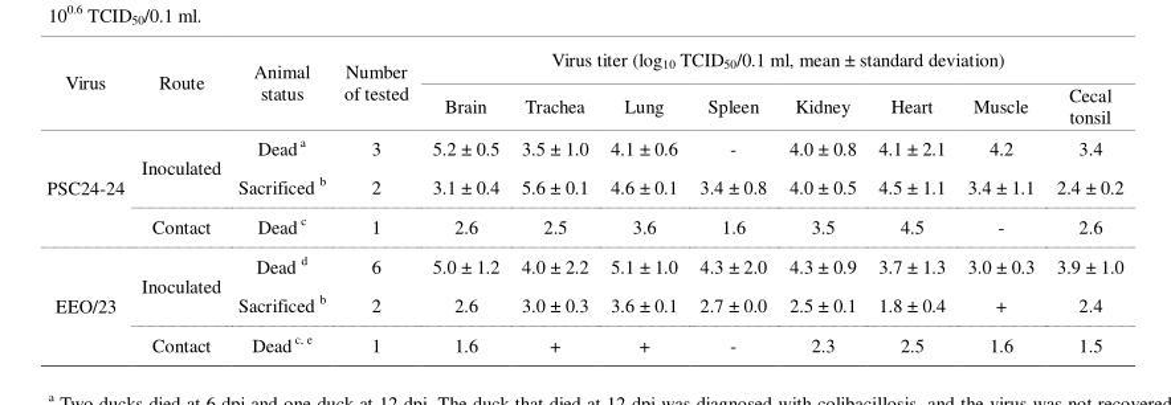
<table><thead><tr><td rowspan="2">Virus</td><td rowspan="2">Route</td><td rowspan="2">Animal status</td><td rowspan="2">Number of tested</td><td colspan="8">Virus titer (log<sub>10</sub> TCID<sub>50</sub>/0.1 ml, mean ± standard deviation)</td></tr><tr><td>Brain</td><td>Trachea</td><td>Lung</td><td>Spleen</td><td>Kidney</td><td>Heart</td><td>Muscle</td><td>Cecal tonsil</td></tr></thead><tbody><tr><td rowspan="3">PSC24-24</td><td rowspan="2">Inoculated</td><td>Dead <sup>a</sup></td><td>3</td><td>5.2 ± 0.5</td><td>3.5 ± 1.0</td><td>4.1 ± 0.6</td><td>-</td><td>4.0 ± 0.8</td><td>4.1 ± 2.1</td><td>4.2</td><td>3.4</td></tr><tr><td>Sacrificed <sup>b</sup></td><td>2</td><td>3.1 ± 0.4</td><td>5.6 ± 0.1</td><td>4.6 ± 0.1</td><td>3.4 ± 0.8</td><td>4.0 ± 0.5</td><td>4.5 ± 1.1</td><td>3.4 ± 1.1</td><td>2.4 ± 0.2</td></tr><tr><td>Contact</td><td>Dead <sup>c</sup></td><td>1</td><td>2.6</td><td>2.5</td><td>3.6</td><td>1.6</td><td>3.5</td><td>4.5</td><td>-</td><td>2.6</td></tr><tr><td rowspan="3">EEO/23</td><td rowspan="2">Inoculated</td><td>Dead <sup>d</sup></td><td>6</td><td>5.0 ± 1.2</td><td>4.0 ± 2.2</td><td>5.1 ± 1.0</td><td>4.3 ± 2.0</td><td>4.3 ± 0.9</td><td>3.7 ± 1.3</td><td>3.0 ± 0.3</td><td>3.9 ± 1.0</td></tr><tr><td>Sacrificed <sup>b</sup></td><td>2</td><td>2.6</td><td>3.0 ± 0.3</td><td>3.6 ± 0.1</td><td>2.7 ± 0.0</td><td>2.5 ± 0.1</td><td>1.8 ± 0.4</td><td>+</td><td>2.4</td></tr><tr><td>Contact</td><td>Dead <sup>c, e</sup></td><td>1</td><td>1.6</td><td>+</td><td>+</td><td>-</td><td>2.3</td><td>2.5</td><td>1.6</td><td>1.5</td></tr></tbody></table>